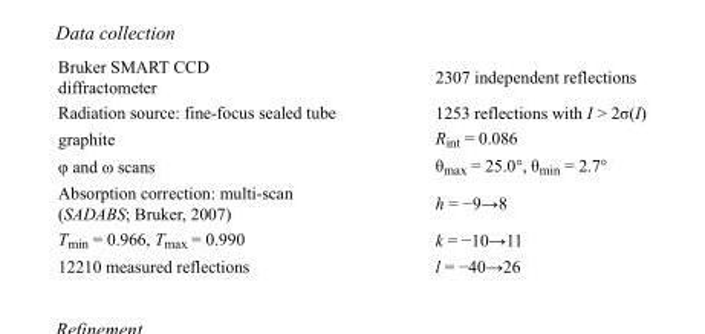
<table><tbody><tr><td>Bruker SMART CCD diffractometer</td><td>2307 independent reflections</td></tr><tr><td>Radiation source: fine-focus sealed tube</td><td>1253 reflections with I &gt; 2σ(I)</td></tr><tr><td>graphite</td><td>R<sub>int</sub> = 0.086</td></tr><tr><td>φ and ω scans</td><td>θ<sub>max</sub> = 25.0°, θ<sub>min</sub> = 2.7°</td></tr><tr><td>Absorption correction: multi-scan (SADABS; Bruker, 2007)</td><td>h = −9→8</td></tr><tr><td>T<sub>min</sub> = 0.966, T<sub>max</sub> = 0.990</td><td>k = −10→11</td></tr><tr><td>12210 measured reflections</td><td>l = −40→26</td></tr></tbody></table>